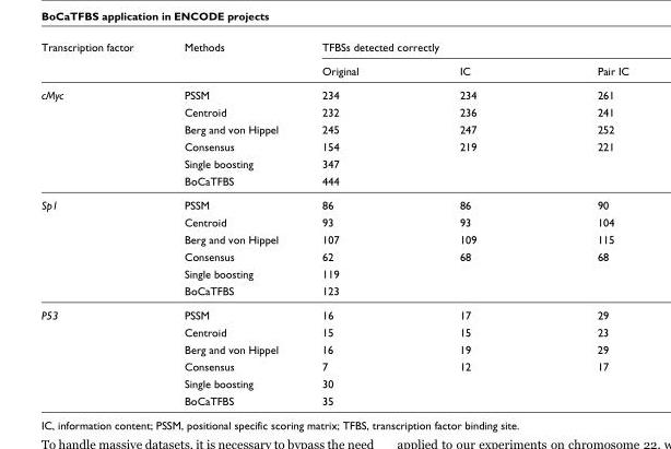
<table><thead><tr><td rowspan="2">Transcription factor</td><td rowspan="2">Methods</td><td colspan="3">TFBSs detected correctly</td></tr><tr><td>Original</td><td>IC</td><td>Pair IC</td></tr></thead><tbody><tr><td rowspan="6">cMyc</td><td>PSSM</td><td>234</td><td>234</td><td>261</td></tr><tr><td>Centroid</td><td>232</td><td>236</td><td>241</td></tr><tr><td>Berg and von Hippel</td><td>245</td><td>247</td><td>252</td></tr><tr><td>Consensus</td><td>154</td><td>219</td><td>221</td></tr><tr><td>Single boosting</td><td>347</td><td></td><td></td></tr><tr><td>BoCaTFBS</td><td>444</td><td></td><td></td></tr><tr><td rowspan="6">Sp1</td><td>PSSM</td><td>86</td><td>86</td><td>90</td></tr><tr><td>Centroid</td><td>93</td><td>93</td><td>104</td></tr><tr><td>Berg and von Hippel</td><td>107</td><td>109</td><td>115</td></tr><tr><td>Consensus</td><td>62</td><td>68</td><td>68</td></tr><tr><td>Single boosting</td><td>119</td><td></td><td></td></tr><tr><td>BoCaTFBS</td><td>123</td><td></td><td></td></tr><tr><td rowspan="6">P53</td><td>PSSM</td><td>16</td><td>17</td><td>29</td></tr><tr><td>Centroid</td><td>15</td><td>15</td><td>23</td></tr><tr><td>Berg and von Hippel</td><td>16</td><td>19</td><td>29</td></tr><tr><td>Consensus</td><td>7</td><td>12</td><td>17</td></tr><tr><td>Single boosting</td><td>30</td><td></td><td></td></tr><tr><td>BoCaTFBS</td><td>35</td><td></td><td></td></tr></tbody></table>